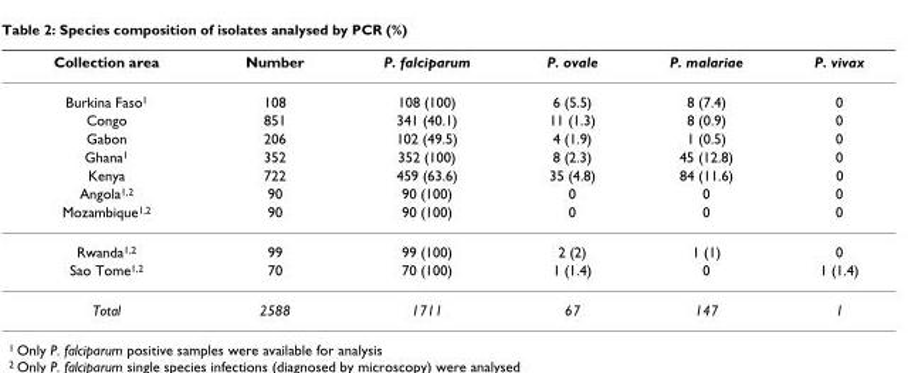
<table><thead><tr><td>Collection area</td><td>Number</td><td>P. falciparum</td><td>P. ovale</td><td>P. malariae</td><td>P. vivax</td></tr></thead><tbody><tr><td>Burkina Faso<sup>1</sup></td><td>108</td><td>108 (100)</td><td>6 (5.5)</td><td>8 (7.4)</td><td>0</td></tr><tr><td>Congo</td><td>851</td><td>341 (40.1)</td><td>11 (1.3)</td><td>8 (0.9)</td><td>0</td></tr><tr><td>Gabon</td><td>206</td><td>102 (49.5)</td><td>4 (1.9)</td><td>1 (0.5)</td><td>0</td></tr><tr><td>Ghana<sup>1</sup></td><td>352</td><td>352 (100)</td><td>8 (2.3)</td><td>45 (12.8)</td><td>0</td></tr><tr><td>Kenya</td><td>722</td><td>459 (63.6)</td><td>35 (4.8)</td><td>84 (11.6)</td><td>0</td></tr><tr><td>Angola<sup>1,2</sup></td><td>90</td><td>90 (100)</td><td>0</td><td>0</td><td>0</td></tr><tr><td>Mozambique<sup>1,2</sup></td><td>90</td><td>90 (100)</td><td>0</td><td>0</td><td>0</td></tr><tr><td>Rwanda<sup>1,2</sup></td><td>99</td><td>99 (100)</td><td>2 (2)</td><td>1 (1)</td><td>0</td></tr><tr><td>Sao Tome<sup>1,2</sup></td><td>70</td><td>70 (100)</td><td>1 (1.4)</td><td>0</td><td>1 (1.4)</td></tr><tr><td>Total</td><td>2588</td><td>1711</td><td>67</td><td>147</td><td>1</td></tr></tbody></table>